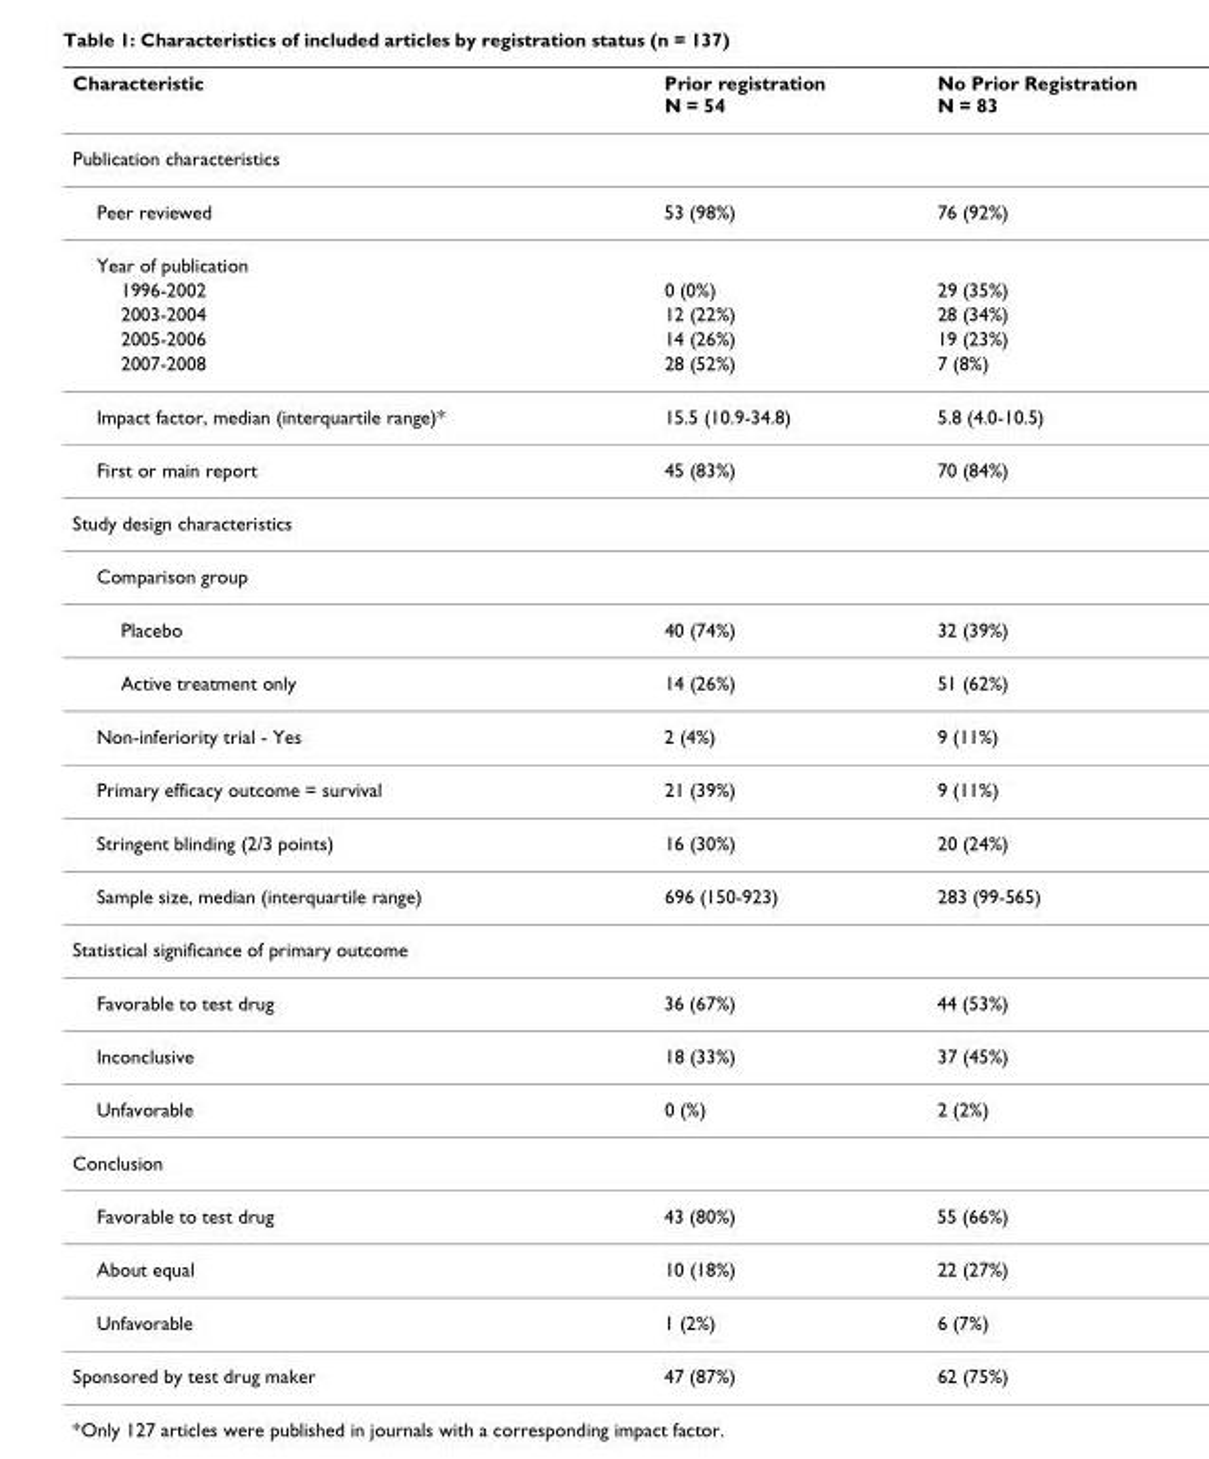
<table><thead><tr><td>Characteristic</td><td>Prior registration N = 54</td><td>No Prior Registration N = 83</td></tr></thead><tbody><tr><td colspan="3">Publication characteristics</td></tr><tr><td>Peer reviewed</td><td>53 (98%)</td><td>76 (92%)</td></tr><tr><td colspan="3">Year of publication</td></tr><tr><td>1996-2002</td><td>0 (0%)</td><td>29 (35%)</td></tr><tr><td>2003-2004</td><td>12 (22%)</td><td>28 (34%)</td></tr><tr><td>2005-2006</td><td>14 (26%)</td><td>19 (23%)</td></tr><tr><td>2007-2008</td><td>28 (52%)</td><td>7 (8%)</td></tr><tr><td>Impact factor, median (interquartile range)*</td><td>15.5 (10.9-34.8)</td><td>5.8 (4.0-10.5)</td></tr><tr><td>First or main report</td><td>45 (83%)</td><td>70 (84%)</td></tr><tr><td colspan="3">Study design characteristics</td></tr><tr><td colspan="3">Comparison group</td></tr><tr><td>Placebo</td><td>40 (74%)</td><td>32 (39%)</td></tr><tr><td>Active treatment only</td><td>14 (26%)</td><td>51 (62%)</td></tr><tr><td>Non-inferiority trial - Yes</td><td>2 (4%)</td><td>9 (11%)</td></tr><tr><td>Primary efficacy outcome = survival</td><td>21 (39%)</td><td>9 (11%)</td></tr><tr><td>Stringent blinding (2/3 points)</td><td>16 (30%)</td><td>20 (24%)</td></tr><tr><td>Sample size, median (interquartile range)</td><td>696 (150-923)</td><td>283 (99-565)</td></tr><tr><td colspan="3">Statistical significance of primary outcome</td></tr><tr><td>Favorable to test drug</td><td>36 (67%)</td><td>44 (53%)</td></tr><tr><td>Inconclusive</td><td>18 (33%)</td><td>37 (45%)</td></tr><tr><td>Unfavorable</td><td>0 (%)</td><td>2 (2%)</td></tr><tr><td colspan="3">Conclusion</td></tr><tr><td>Favorable to test drug</td><td>43 (80%)</td><td>55 (66%)</td></tr><tr><td>About equal</td><td>10 (18%)</td><td>22 (27%)</td></tr><tr><td>Unfavorable</td><td>1 (2%)</td><td>6 (7%)</td></tr><tr><td>Sponsored by test drug maker</td><td>47 (87%)</td><td>62 (75%)</td></tr></tbody></table>